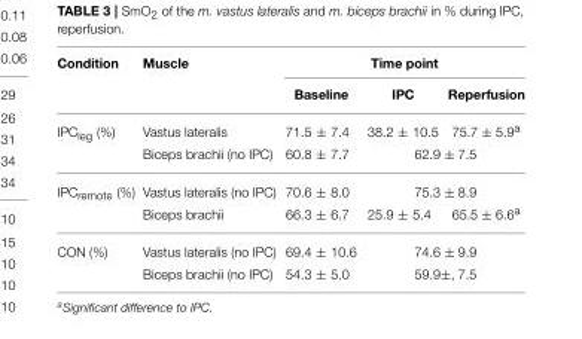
<table><thead><tr><td rowspan="2">Condition</td><td rowspan="2">Muscle</td><td colspan="3">Time point</td></tr><tr><td>Baseline</td><td>IPC</td><td>Reperfusion</td></tr></thead><tbody><tr><td rowspan="2">IPC<sub>leg</sub> (%)</td><td>Vastus lateralis</td><td>71.5 ± 7.4</td><td>38.2 ± 10.5</td><td>75.7 ± 5.9<sup>a</sup></td></tr><tr><td>Biceps brachii (no IPC)</td><td>60.8 ± 7.7</td><td colspan="2">62.9 ± 7.5</td></tr><tr><td rowspan="2">IPC<sub>remote</sub> (%)</td><td>Vastus lateralis (no IPC)</td><td>70.6 ± 8.0</td><td colspan="2">75.3 ± 8.9</td></tr><tr><td>Biceps brachii</td><td>66.3 ± 6.7</td><td>25.9 ± 5.4</td><td>65.5 ± 6.6<sup>a</sup></td></tr><tr><td rowspan="2">CON (%)</td><td>Vastus lateralis (no IPC)</td><td>69.4 ± 10.6</td><td colspan="2">74.6 ± 9.9</td></tr><tr><td>Biceps brachii (no IPC)</td><td>54.3 ± 5.0</td><td colspan="2">59.9±, 7.5</td></tr></tbody></table>